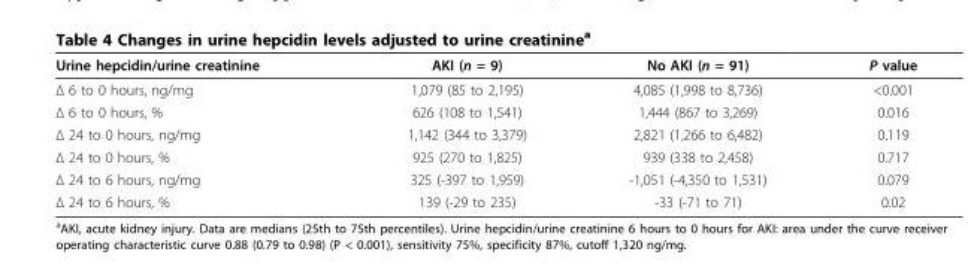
<table><thead><tr><td>Urine hepcidin/urine creatinine</td><td>AKI (n = 9)</td><td>No AKI (n = 91)</td><td>P value</td></tr></thead><tbody><tr><td>Δ 6 to 0 hours, ng/mg</td><td>1,079 (85 to 2,195)</td><td>4,085 (1,998 to 8,736)</td><td>&lt;0.001</td></tr><tr><td>Δ 6 to 0 hours, %</td><td>626 (108 to 1,541)</td><td>1,444 (867 to 3,269)</td><td>0.016</td></tr><tr><td>Δ 24 to 0 hours, ng/mg</td><td>1,142 (344 to 3,379)</td><td>2,821 (1,266 to 6,482)</td><td>0.119</td></tr><tr><td>Δ 24 to 0 hours, %</td><td>925 (270 to 1,825)</td><td>939 (338 to 2,458)</td><td>0.717</td></tr><tr><td>Δ 24 to 6 hours, ng/mg</td><td>325 (-397 to 1,959)</td><td>-1,051 (-4,350 to 1,531)</td><td>0.079</td></tr><tr><td>Δ 24 to 6 hours, %</td><td>139 (-29 to 235)</td><td>-33 (-71 to 71)</td><td>0.02</td></tr></tbody></table>